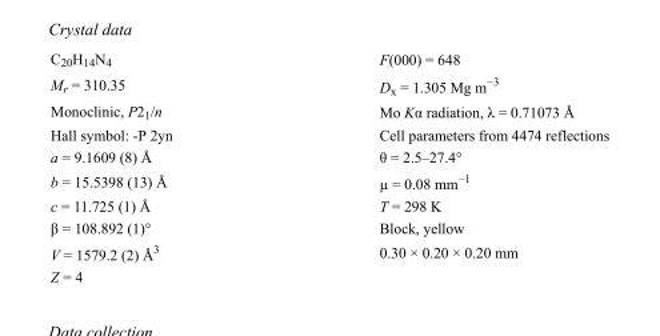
<table><tbody><tr><td>C<sub>20</sub>H<sub>14</sub>N<sub>4</sub></td><td>F(000) = 648</td></tr><tr><td>M<sub>r</sub> = 310.35</td><td>D<sub>x</sub> = 1.305 Mg m<sup>−3</sup></td></tr><tr><td>Monoclinic, P2<sub>1</sub>/n</td><td>Mo Kα radiation, λ = 0.71073 Å</td></tr><tr><td>Hall symbol: -P 2yn</td><td>Cell parameters from 4474 reflections</td></tr><tr><td>a = 9.1609 (8) Å</td><td>θ = 2.5–27.4°</td></tr><tr><td>b = 15.5398 (13) Å</td><td>µ = 0.08 mm<sup>−1</sup></td></tr><tr><td>c = 11.725 (1) Å</td><td>T = 298 K</td></tr><tr><td>β = 108.892 (1)°</td><td>Block, yellow</td></tr><tr><td>V = 1579.2 (2) Å<sup>3</sup></td><td>0.30 × 0.20 × 0.20 mm</td></tr><tr><td>Z = 4</td><td></td></tr></tbody></table>